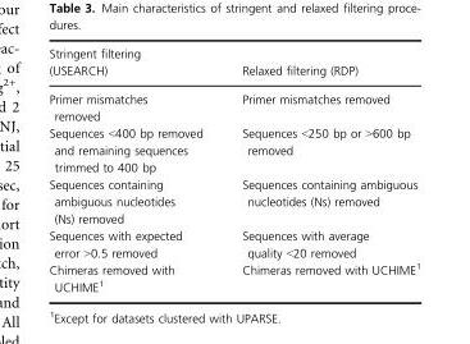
<table><thead><tr><td>Stringent filtering (USEARCH)</td><td>Relaxed filtering (RDP)</td></tr></thead><tbody><tr><td>Primer mismatches removed</td><td>Primer mismatches removed</td></tr><tr><td>Sequences &lt;400 bp removed and remaining sequences trimmed to 400 bp</td><td>Sequences &lt;250 bp or &gt;600 bp removed</td></tr><tr><td>Sequences containing ambiguous nucleotides (Ns) removed</td><td>Sequences containing ambiguous nucleotides (Ns) removed</td></tr><tr><td>Sequences with expected error &gt;0.5 removed</td><td>Sequences with average quality &lt;20 removed</td></tr><tr><td>Chimeras removed with UCHIME<sup>1</sup></td><td>Chimeras removed with UCHIME<sup>1</sup></td></tr></tbody></table>